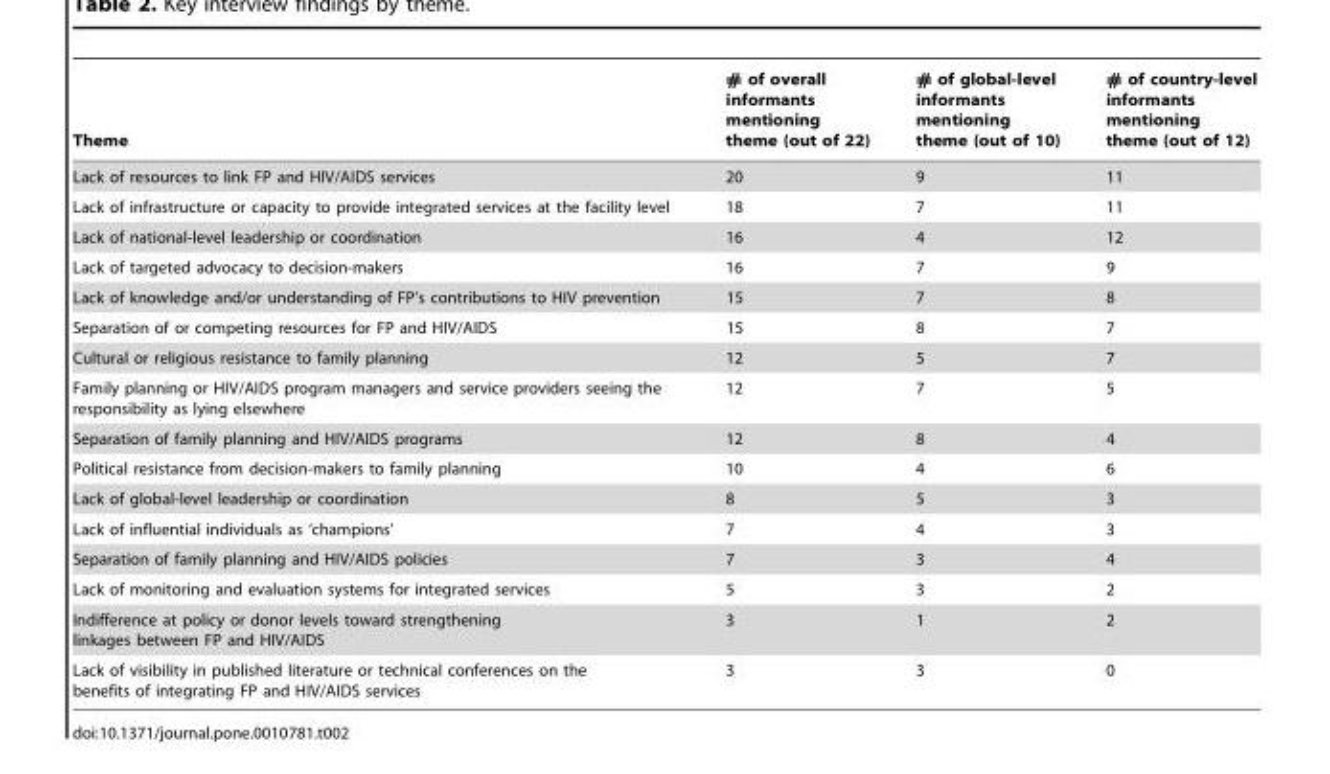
<table><thead><tr><td>Theme</td><td># of overall informants mentioning theme (out of 22)</td><td># of global-level informants mentioning theme (out of 10)</td><td># of country-level informants mentioning theme (out of 12)</td></tr></thead><tbody><tr><td>Lack of resources to link FP and HIV/AIDS services</td><td>20</td><td>9</td><td>11</td></tr><tr><td>Lack of infrastructure or capacity to provide integrated services at the facility level</td><td>18</td><td>7</td><td>11</td></tr><tr><td>Lack of national-level leadership or coordination</td><td>16</td><td>4</td><td>12</td></tr><tr><td>Lack of targeted advocacy to decision-makers</td><td>16</td><td>7</td><td>9</td></tr><tr><td>Lack of knowledge and/or understanding of FP’s contributions to HIV prevention</td><td>15</td><td>7</td><td>8</td></tr><tr><td>Separation of or competing resources for FP and HIV/AIDS</td><td>15</td><td>8</td><td>7</td></tr><tr><td>Cultural or religious resistance to family planning</td><td>12</td><td>5</td><td>7</td></tr><tr><td>Family planning or HIV/AIDS program managers and service providers seeing the responsibility as lying elsewhere</td><td>12</td><td>7</td><td>5</td></tr><tr><td>Separation of family planning and HIV/AIDS programs</td><td>12</td><td>8</td><td>4</td></tr><tr><td>Political resistance from decision-makers to family planning</td><td>10</td><td>4</td><td>6</td></tr><tr><td>Lack of global-level leadership or coordination</td><td>8</td><td>5</td><td>3</td></tr><tr><td>Lack of influential individuals as ‘champions’</td><td>7</td><td>4</td><td>3</td></tr><tr><td>Separation of family planning and HIV/AIDS policies</td><td>7</td><td>3</td><td>4</td></tr><tr><td>Lack of monitoring and evaluation systems for integrated services</td><td>5</td><td>3</td><td>2</td></tr><tr><td>Indifference at policy or donor levels toward strengthening linkages between FP and HIV/AIDS</td><td>3</td><td>1</td><td>2</td></tr><tr><td>Lack of visibility in published literature or technical conferences on the benefits of integrating FP and HIV/AIDS services</td><td>3</td><td>3</td><td>0</td></tr></tbody></table>